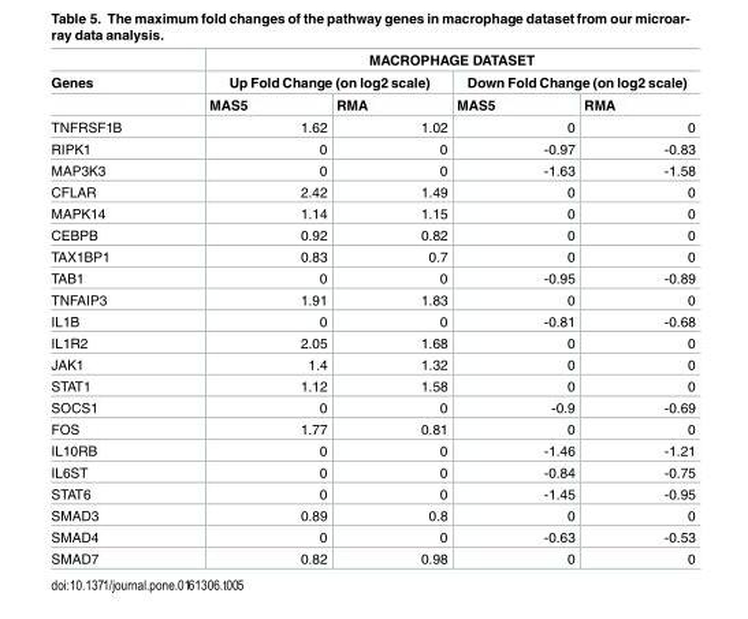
<table><thead><tr><td rowspan="3">Genes</td><td colspan="4">MACROPHAGE DATASET</td></tr><tr><td colspan="2">Up Fold Change (on log2 scale)</td><td colspan="2">Down Fold Change (on log2 scale)</td></tr><tr><td>MAS5</td><td>RMA</td><td>MAS5</td><td>RMA</td></tr></thead><tbody><tr><td>TNFRSF1B</td><td>1.62</td><td>1.02</td><td>0</td><td>0</td></tr><tr><td>RIPK1</td><td>0</td><td>0</td><td>-0.97</td><td>-0.83</td></tr><tr><td>MAP3K3</td><td>0</td><td>0</td><td>-1.63</td><td>-1.58</td></tr><tr><td>CFLAR</td><td>2.42</td><td>1.49</td><td>0</td><td>0</td></tr><tr><td>MAPK14</td><td>1.14</td><td>1.15</td><td>0</td><td>0</td></tr><tr><td>CEBPB</td><td>0.92</td><td>0.82</td><td>0</td><td>0</td></tr><tr><td>TAX1BP1</td><td>0.83</td><td>0.7</td><td>0</td><td>0</td></tr><tr><td>TAB1</td><td>0</td><td>0</td><td>-0.95</td><td>-0.89</td></tr><tr><td>TNFAIP3</td><td>1.91</td><td>1.83</td><td>0</td><td>0</td></tr><tr><td>IL1B</td><td>0</td><td>0</td><td>-0.81</td><td>-0.68</td></tr><tr><td>IL1R2</td><td>2.05</td><td>1.68</td><td>0</td><td>0</td></tr><tr><td>JAK1</td><td>1.4</td><td>1.32</td><td>0</td><td>0</td></tr><tr><td>STAT1</td><td>1.12</td><td>1.58</td><td>0</td><td>0</td></tr><tr><td>SOCS1</td><td>0</td><td>0</td><td>-0.9</td><td>-0.69</td></tr><tr><td>FOS</td><td>1.77</td><td>0.81</td><td>0</td><td>0</td></tr><tr><td>IL10RB</td><td>0</td><td>0</td><td>-1.46</td><td>-1.21</td></tr><tr><td>IL6ST</td><td>0</td><td>0</td><td>-0.84</td><td>-0.75</td></tr><tr><td>STAT6</td><td>0</td><td>0</td><td>-1.45</td><td>-0.95</td></tr><tr><td>SMAD3</td><td>0.89</td><td>0.8</td><td>0</td><td>0</td></tr><tr><td>SMAD4</td><td>0</td><td>0</td><td>-0.63</td><td>-0.53</td></tr><tr><td>SMAD7</td><td>0.82</td><td>0.98</td><td>0</td><td>0</td></tr></tbody></table>